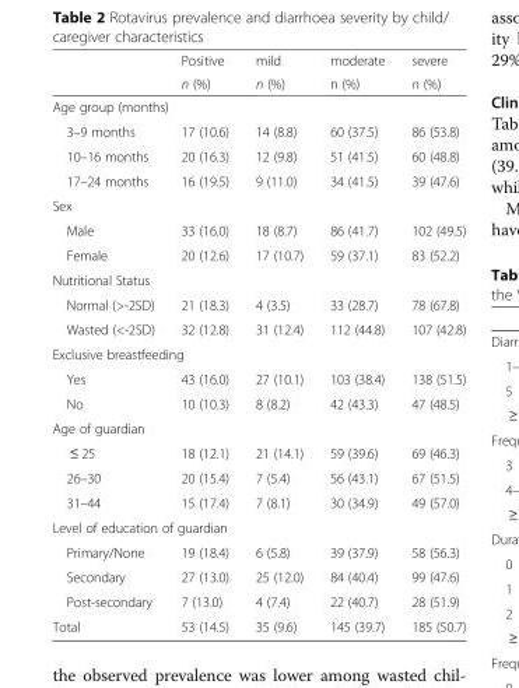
<table><thead><tr><td rowspan="2"></td><td rowspan="2">Positive n (%)</td><td rowspan="2">mild n (%)</td><td rowspan="2">moderate n (%)</td><td rowspan="2">severe n (%)</td></tr><tr></tr></thead><tbody><tr><td colspan="5">Age group (months)</td></tr><tr><td>3–9 months</td><td>17 (10.6)</td><td>14 (8.8)</td><td>60 (37.5)</td><td>86 (53.8)</td></tr><tr><td>10–16 months</td><td>20 (16.3)</td><td>12 (9.8)</td><td>51 (41.5)</td><td>60 (48.8)</td></tr><tr><td>17–24 months</td><td>16 (19.5)</td><td>9 (11.0)</td><td>34 (41.5)</td><td>39 (47.6)</td></tr><tr><td colspan="5">Sex</td></tr><tr><td>Male</td><td>33 (16.0)</td><td>18 (8.7)</td><td>86 (41.7)</td><td>102 (49.5)</td></tr><tr><td>Female</td><td>20 (12.6)</td><td>17 (10.7)</td><td>59 (37.1)</td><td>83 (52.2)</td></tr><tr><td colspan="5">Nutritional Status</td></tr><tr><td>Normal (&gt;-2SD)</td><td>21 (18.3)</td><td>4 (3.5)</td><td>33 (28.7)</td><td>78 (67.8)</td></tr><tr><td>Wasted (&lt;-2SD)</td><td>32 (12.8)</td><td>31 (12.4)</td><td>112 (44.8)</td><td>107 (42.8)</td></tr><tr><td colspan="5">Exclusive breastfeeding</td></tr><tr><td>Yes</td><td>43 (16.0)</td><td>27 (10.1)</td><td>103 (38.4)</td><td>138 (51.5)</td></tr><tr><td>No</td><td>10 (10.3)</td><td>8 (8.2)</td><td>42 (43.3)</td><td>47 (48.5)</td></tr><tr><td colspan="5">Age of guardian</td></tr><tr><td>≤ 25</td><td>18 (12.1)</td><td>21 (14.1)</td><td>59 (39.6)</td><td>69 (46.3)</td></tr><tr><td>26–30</td><td>20 (15.4)</td><td>7 (5.4)</td><td>56 (43.1)</td><td>67 (51.5)</td></tr><tr><td>31–44</td><td>15 (17.4)</td><td>7 (8.1)</td><td>30 (34.9)</td><td>49 (57.0)</td></tr><tr><td colspan="5">Level of education of guardian</td></tr><tr><td>Primary/None</td><td>19 (18.4)</td><td>6 (5.8)</td><td>39 (37.9)</td><td>58 (56.3)</td></tr><tr><td>Secondary</td><td>27 (13.0)</td><td>25 (12.0)</td><td>84 (40.4)</td><td>99 (47.6)</td></tr><tr><td>Post-secondary</td><td>7 (13.0)</td><td>4 (7.4)</td><td>22 (40.7)</td><td>28 (51.9)</td></tr><tr><td>Total</td><td>53 (14.5)</td><td>35 (9.6)</td><td>145 (39.7)</td><td>185 (50.7)</td></tr></tbody></table>